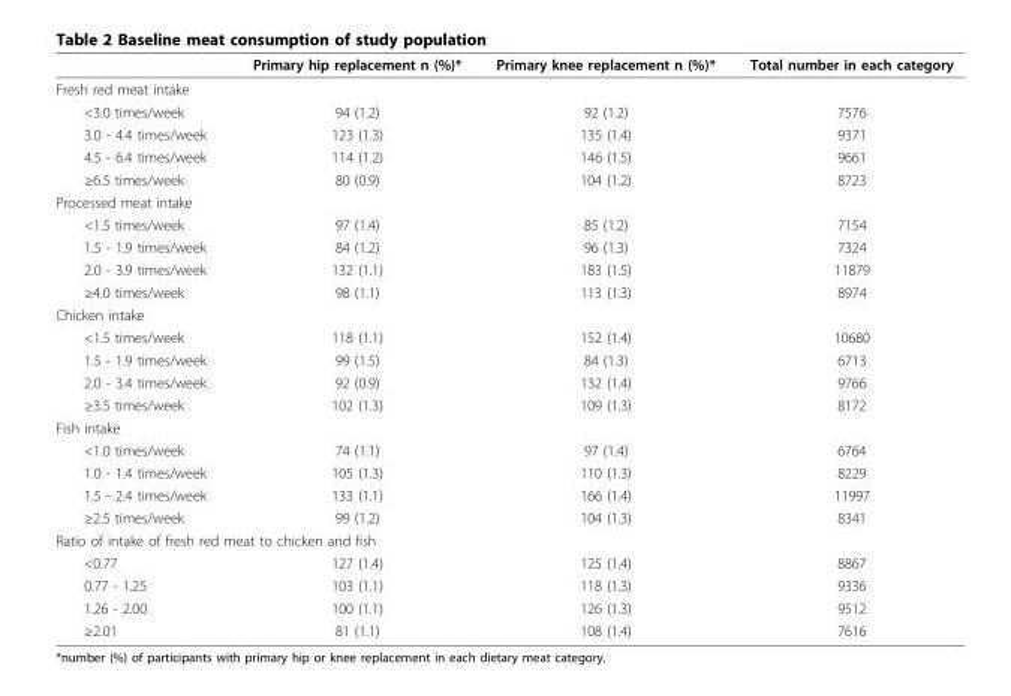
<table><thead><tr><td></td><td>Primary hip replacement n (%)*</td><td>Primary knee replacement n (%)*</td><td>Total number in each category</td></tr></thead><tbody><tr><td colspan="4">Fresh red meat intake</td></tr><tr><td>&lt;3.0 times/week</td><td>94 (1.2)</td><td>92 (1.2)</td><td>7576</td></tr><tr><td>3.0 - 4.4 times/week</td><td>123 (1.3)</td><td>135 (1.4)</td><td>9371</td></tr><tr><td>4.5 - 6.4 times/week</td><td>114 (1.2)</td><td>146 (1.5)</td><td>9661</td></tr><tr><td>≥6.5 times/week</td><td>80 (0.9)</td><td>104 (1.2)</td><td>8723</td></tr><tr><td colspan="4">Processed meat intake</td></tr><tr><td>&lt;1.5 times/week</td><td>97 (1.4)</td><td>85 (1.2)</td><td>7154</td></tr><tr><td>1.5 - 1.9 times/week</td><td>84 (1.2)</td><td>96 (1.3)</td><td>7324</td></tr><tr><td>2.0 - 3.9 times/week</td><td>132 (1.1)</td><td>183 (1.5)</td><td>11879</td></tr><tr><td>≥4.0 times/week</td><td>98 (1.1)</td><td>113 (1.3)</td><td>8974</td></tr><tr><td colspan="4">Chicken intake</td></tr><tr><td>&lt;1.5 times/week</td><td>118 (1.1)</td><td>152 (1.4)</td><td>10680</td></tr><tr><td>1.5 - 1.9 times/week</td><td>99 (1.5)</td><td>84 (1.3)</td><td>6713</td></tr><tr><td>2.0 - 3.4 times/week</td><td>92 (0.9)</td><td>132 (1.4)</td><td>9766</td></tr><tr><td>≥3.5 times/week</td><td>102 (1.3)</td><td>109 (1.3)</td><td>8172</td></tr><tr><td colspan="4">Fish intake</td></tr><tr><td>&lt;1.0 times/week</td><td>74 (1.1)</td><td>97 (1.4)</td><td>6764</td></tr><tr><td>1.0 - 1.4 times/week</td><td>105 (1.3)</td><td>110 (1.3)</td><td>8229</td></tr><tr><td>1.5 - 2.4 times/week</td><td>133 (1.1)</td><td>166 (1.4)</td><td>11997</td></tr><tr><td>≥2.5 times/week</td><td>99 (1.2)</td><td>104 (1.3)</td><td>8341</td></tr><tr><td colspan="4">Ratio of intake of fresh red meat to chicken and fish</td></tr><tr><td>&lt;0.77</td><td>127 (1.4)</td><td>125 (1.4)</td><td>8867</td></tr><tr><td>0.77 - 1.25</td><td>103 (1.1)</td><td>118 (1.3)</td><td>9336</td></tr><tr><td>1.26 - 2.00</td><td>100 (1.1)</td><td>126 (1.3)</td><td>9512</td></tr><tr><td>≥2.01</td><td>81 (1.1)</td><td>108 (1.4)</td><td>7616</td></tr></tbody></table>